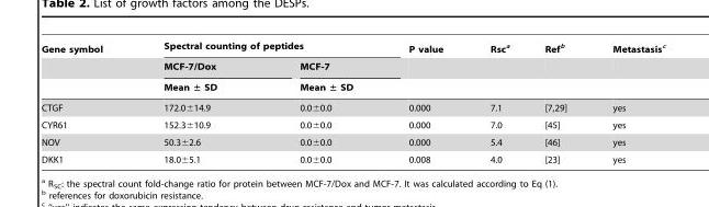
<table><thead><tr><td rowspan="3">Gene symbol</td><td colspan="2">Spectral counting of peptides</td><td rowspan="3">P value</td><td rowspan="3">Rsc<sup>a</sup></td><td rowspan="3">Ref<sup>b</sup></td><td rowspan="3">Metastasis<sup>c</sup></td></tr><tr><td rowspan="2">MCF-7/Dox Mean ± SD</td><td rowspan="2">MCF-7 Mean ± SD</td></tr><tr></tr></thead><tbody><tr><td>CTGF</td><td>172.0±14.9</td><td>0.0±0.0</td><td>0.000</td><td>7.1</td><td>[7,29]</td><td>yes</td></tr><tr><td>CYR61</td><td>152.3±10.9</td><td>0.0±0.0</td><td>0.000</td><td>7.0</td><td>[45]</td><td>yes</td></tr><tr><td>NOV</td><td>50.3±2.6</td><td>0.0±0.0</td><td>0.000</td><td>5.4</td><td>[46]</td><td>yes</td></tr><tr><td>DKK1</td><td>18.0±5.1</td><td>0.0±0.0</td><td>0.008</td><td>4.0</td><td>[23]</td><td>yes</td></tr></tbody></table>